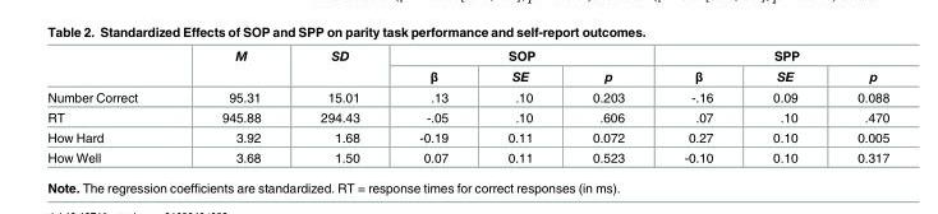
<table><thead><tr><td rowspan="2"></td><td rowspan="2">M</td><td rowspan="2">SD</td><td colspan="3">SOP</td><td colspan="3">SPP</td></tr><tr><td>β</td><td>SE</td><td>p</td><td>β</td><td>SE</td><td>p</td></tr></thead><tbody><tr><td>Number Correct</td><td>95.31</td><td>15.01</td><td>.13</td><td>.10</td><td>0.203</td><td>-.16</td><td>0.09</td><td>0.088</td></tr><tr><td>RT</td><td>945.88</td><td>294.43</td><td>-.05</td><td>.10</td><td>.606</td><td>.07</td><td>.10</td><td>.470</td></tr><tr><td>How Hard</td><td>3.92</td><td>1.68</td><td>-0.19</td><td>0.11</td><td>0.072</td><td>0.27</td><td>0.10</td><td>0.005</td></tr><tr><td>How Well</td><td>3.68</td><td>1.50</td><td>0.07</td><td>0.11</td><td>0.523</td><td>-0.10</td><td>0.10</td><td>0.317</td></tr></tbody></table>